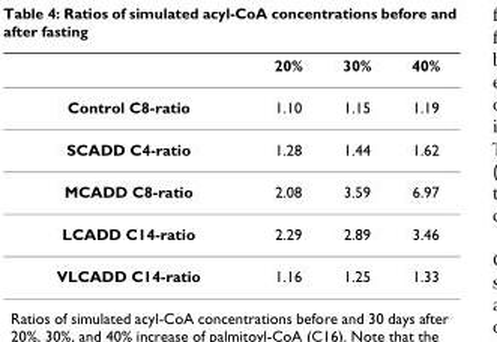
<table><thead><tr><td></td><td>20%</td><td>30%</td><td>40%</td></tr></thead><tbody><tr><td>Control C8-ratio</td><td>1.10</td><td>1.15</td><td>1.19</td></tr><tr><td>SCADD C4-ratio</td><td>1.28</td><td>1.44</td><td>1.62</td></tr><tr><td>MCADD C8-ratio</td><td>2.08</td><td>3.59</td><td>6.97</td></tr><tr><td>LCADD C14-ratio</td><td>2.29</td><td>2.89</td><td>3.46</td></tr><tr><td>VLCADD C14-ratio</td><td>1.16</td><td>1.25</td><td>1.33</td></tr></tbody></table>